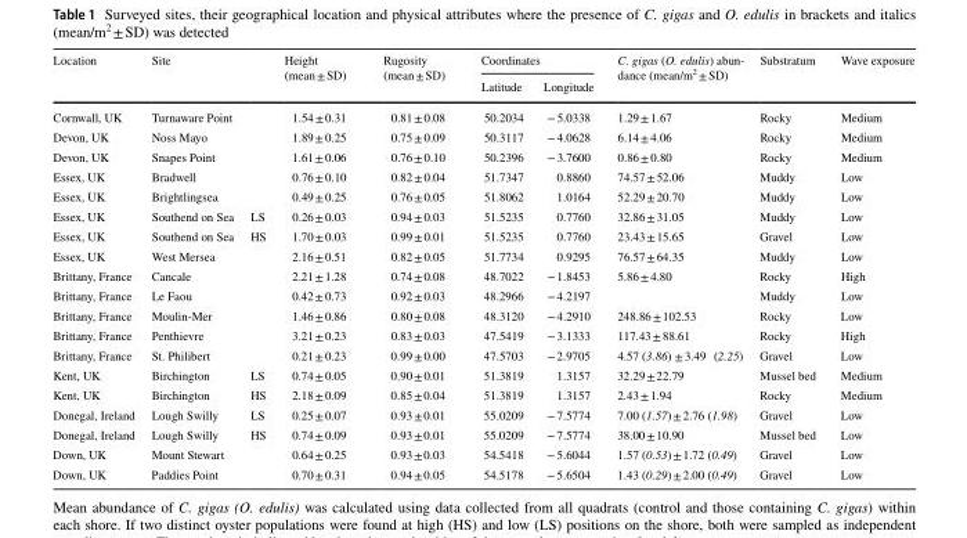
<table><thead><tr><td rowspan="2">Location</td><td rowspan="2">Site</td><td rowspan="2"></td><td rowspan="2">Height (mean ± SD)</td><td rowspan="2">Rugosity (mean ± SD)</td><td colspan="2">Coordinates</td><td rowspan="2">C. gigas (O. edulis) abun- dance (mean/m2 ± SD)</td><td rowspan="2">Substratum</td><td rowspan="2">Wave exposure</td></tr><tr><td>Latitude</td><td>Longitude</td></tr></thead><tbody><tr><td>Cornwall, UK</td><td>Turnaware Point</td><td></td><td>1.54 ± 0.31</td><td>0.81 ± 0.08</td><td>50.2034</td><td>− 5.0338</td><td>1.29 ± 1.67</td><td>Rocky</td><td>Medium</td></tr><tr><td>Devon, UK</td><td>Noss Mayo</td><td></td><td>1.89 ± 0.25</td><td>0.75 ± 0.09</td><td>50.3117</td><td>− 4.0628</td><td>6.14 ± 4.06</td><td>Rocky</td><td>Medium</td></tr><tr><td>Devon, UK</td><td>Snapes Point</td><td></td><td>1.61 ± 0.06</td><td>0.76 ± 0.10</td><td>50.2396</td><td>− 3.7600</td><td>0.86 ± 0.80</td><td>Rocky</td><td>Medium</td></tr><tr><td>Essex, UK</td><td>Bradwell</td><td></td><td>0.76 ± 0.10</td><td>0.82 ± 0.04</td><td>51.7347</td><td>0.8860</td><td>74.57 ± 52.06</td><td>Muddy</td><td>Low</td></tr><tr><td>Essex, UK</td><td>Brightlingsea</td><td></td><td>0.49 ± 0.25</td><td>0.76 ± 0.05</td><td>51.8062</td><td>1.0164</td><td>52.29 ± 20.70</td><td>Muddy</td><td>Low</td></tr><tr><td>Essex, UK</td><td>Southend on Sea</td><td>LS</td><td>0.26 ± 0.03</td><td>0.94 ± 0.03</td><td>51.5235</td><td>0.7760</td><td>32.86 ± 31.05</td><td>Muddy</td><td>Low</td></tr><tr><td>Essex, UK</td><td>Southend on Sea</td><td>HS</td><td>1.70 ± 0.03</td><td>0.99 ± 0.01</td><td>51.5235</td><td>0.7760</td><td>23.43 ± 15.65</td><td>Gravel</td><td>Low</td></tr><tr><td>Essex, UK</td><td>West Mersea</td><td></td><td>2.16 ± 0.51</td><td>0.82 ± 0.05</td><td>51.7734</td><td>0.9295</td><td>76.57 ± 64.35</td><td>Muddy</td><td>Low</td></tr><tr><td>Brittany, France</td><td>Cancale</td><td></td><td>2.21 ± 1.28</td><td>0.74 ± 0.08</td><td>48.7022</td><td>− 1.8453</td><td>5.86 ± 4.80</td><td>Rocky</td><td>High</td></tr><tr><td>Brittany, France</td><td>Le Faou</td><td></td><td>0.42 ± 0.73</td><td>0.92 ± 0.03</td><td>48.2966</td><td>− 4.2197</td><td></td><td>Muddy</td><td>Low</td></tr><tr><td>Brittany, France</td><td>Moulin-Mer</td><td></td><td>1.46 ± 0.86</td><td>0.80 ± 0.08</td><td>48.3120</td><td>− 4.2910</td><td>248.86 ± 102.53</td><td>Rocky</td><td>Low</td></tr><tr><td>Brittany, France</td><td>Penthievre</td><td></td><td>3.21 ± 0.23</td><td>0.83 ± 0.03</td><td>47.5419</td><td>− 3.1333</td><td>117.43 ± 88.61</td><td>Rocky</td><td>High</td></tr><tr><td>Brittany, France</td><td>St. Philibert</td><td></td><td>0.21 ± 0.23</td><td>0.99 ± 0.00</td><td>47.5703</td><td>− 2.9705</td><td>4.57 (3.86) ± 3.49 (2.25)</td><td>Gravel</td><td>Low</td></tr><tr><td>Kent, UK</td><td>Birchington</td><td>LS</td><td>0.74 ± 0.05</td><td>0.90 ± 0.01</td><td>51.3819</td><td>1.3157</td><td>32.29 ± 22.79</td><td>Mussel bed</td><td>Medium</td></tr><tr><td>Kent, UK</td><td>Birchington</td><td>HS</td><td>2.18 ± 0.09</td><td>0.85 ± 0.04</td><td>51.3819</td><td>1.3157</td><td>2.43 ± 1.94</td><td>Rocky</td><td>Medium</td></tr><tr><td>Donegal, Ireland</td><td>Lough Swilly</td><td>LS</td><td>0.25 ± 0.07</td><td>0.93 ± 0.01</td><td>55.0209</td><td>− 7.5774</td><td>7.00 (1.57) ± 2.76 (1.98)</td><td>Gravel</td><td>Low</td></tr><tr><td>Donegal, Ireland</td><td>Lough Swilly</td><td>HS</td><td>0.74 ± 0.09</td><td>0.93 ± 0.01</td><td>55.0209</td><td>− 7.5774</td><td>38.00 ± 10.90</td><td>Mussel bed</td><td>Low</td></tr><tr><td>Down, UK</td><td>Mount Stewart</td><td></td><td>0.64 ± 0.25</td><td>0.93 ± 0.03</td><td>54.5418</td><td>− 5.6044</td><td>1.57 (0.53) ± 1.72 (0.49)</td><td>Gravel</td><td>Low</td></tr><tr><td>Down, UK</td><td>Paddies Point</td><td></td><td>0.70 ± 0.31</td><td>0.94 ± 0.05</td><td>54.5178</td><td>− 5.6504</td><td>1.43 (0.29) ± 2.00 (0.49)</td><td>Gravel</td><td>Low</td></tr></tbody></table>